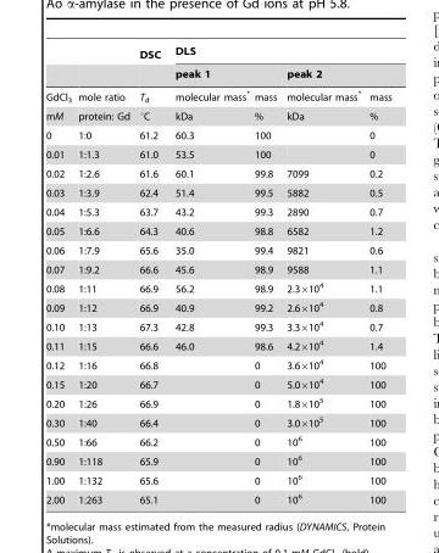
<table><thead><tr><td rowspan="3">GdCl<sub>3</sub></td><td rowspan="3">mole ratio</td><td rowspan="3">DSC T<sub>d</sub></td><td colspan="4">DLS</td></tr><tr><td colspan="2">peak 1</td><td colspan="2">peak 2</td></tr><tr><td>molecular mass*</td><td>mass</td><td>molecular mass*</td><td>mass</td></tr></thead><tbody><tr><td>mM</td><td>protein: Gd</td><td>°C</td><td>kDa</td><td>%</td><td>kDa</td><td>%</td></tr><tr><td>0</td><td>1:0</td><td>61.2</td><td>60.3</td><td>100</td><td></td><td>0</td></tr><tr><td>0.01</td><td>1:1.3</td><td>61.0</td><td>53.5</td><td>100</td><td></td><td>0</td></tr><tr><td>0.02</td><td>1:2.6</td><td>61.6</td><td>60.1</td><td>99.8</td><td>7099</td><td>0.2</td></tr><tr><td>0.03</td><td>1:3.9</td><td>62.4</td><td>51.4</td><td>99.5</td><td>5882</td><td>0.5</td></tr><tr><td>0.04</td><td>1:5.3</td><td>63.7</td><td>43.2</td><td>99.3</td><td>2890</td><td>0.7</td></tr><tr><td>0.05</td><td>1:6.6</td><td>64.3</td><td>40.6</td><td>98.8</td><td>6582</td><td>1.2</td></tr><tr><td>0.06</td><td>1:7.9</td><td>65.6</td><td>35.0</td><td>99.4</td><td>9821</td><td>0.6</td></tr><tr><td>0.07</td><td>1:9.2</td><td>66.6</td><td>45.6</td><td>98.9</td><td>9588</td><td>1.1</td></tr><tr><td>0.08</td><td>1:11</td><td>66.9</td><td>56.2</td><td>98.9</td><td>2.3×10<sup>4</sup></td><td>1.1</td></tr><tr><td>0.09</td><td>1:12</td><td>66.9</td><td>40.9</td><td>99.2</td><td>2.6×10<sup>4</sup></td><td>0.8</td></tr><tr><td>0.10</td><td>1:13</td><td>67.3</td><td>42.8</td><td>99.3</td><td>3.3×10<sup>4</sup></td><td>0.7</td></tr><tr><td>0.11</td><td>1:15</td><td>66.6</td><td>46.0</td><td>98.6</td><td>4.2×10<sup>4</sup></td><td>1.4</td></tr><tr><td>0.12</td><td>1:16</td><td>66.8</td><td></td><td>0</td><td>3.6×10<sup>4</sup></td><td>100</td></tr><tr><td>0.15</td><td>1:20</td><td>66.7</td><td></td><td>0</td><td>5.0×10<sup>4</sup></td><td>100</td></tr><tr><td>0.20</td><td>1:26</td><td>66.9</td><td></td><td>0</td><td>1.8×10<sup>5</sup></td><td>100</td></tr><tr><td>0.30</td><td>1:40</td><td>66.4</td><td></td><td>0</td><td>3.0×10<sup>5</sup></td><td>100</td></tr><tr><td>0.50</td><td>1:66</td><td>66.2</td><td></td><td>0</td><td>10<sup>6</sup></td><td>100</td></tr><tr><td>0.90</td><td>1:118</td><td>65.9</td><td></td><td>0</td><td>10<sup>6</sup></td><td>100</td></tr><tr><td>1.00</td><td>1:132</td><td>65.6</td><td></td><td>0</td><td>10<sup>6</sup></td><td>100</td></tr><tr><td>2.00</td><td>1:263</td><td>65.1</td><td></td><td>0</td><td>10<sup>6</sup></td><td>100</td></tr></tbody></table>